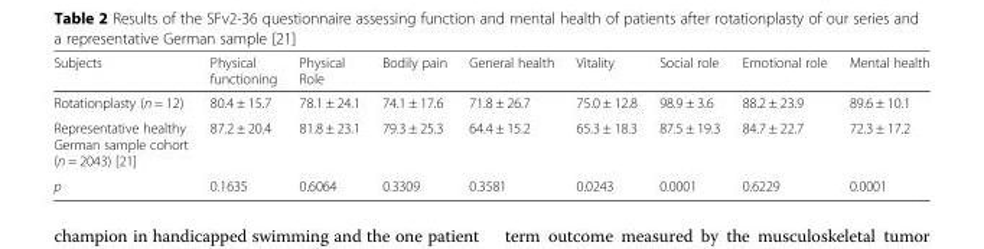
<table><thead><tr><td>Subjects</td><td>Physical functioning</td><td>Physical Role</td><td>Bodily pain</td><td>General health</td><td>Vitality</td><td>Social role</td><td>Emotional role</td><td>Mental health</td></tr></thead><tbody><tr><td>Rotationplasty (n = 12)</td><td>80.4 ± 15.7</td><td>78.1 ± 24.1</td><td>74.1 ± 17.6</td><td>71.8 ± 26.7</td><td>75.0 ± 12.8</td><td>98.9 ± 3.6</td><td>88.2 ± 23.9</td><td>89.6 ± 10.1</td></tr><tr><td>Representative healthy German sample cohort (n = 2043) [21]</td><td>87.2 ± 20.4</td><td>81.8 ± 23.1</td><td>79.3 ± 25.3</td><td>64.4 ± 15.2</td><td>65.3 ± 18.3</td><td>87.5 ± 19.3</td><td>84.7 ± 22.7</td><td>72.3 ± 17.2</td></tr><tr><td>p</td><td>0.1635</td><td>0.6064</td><td>0.3309</td><td>0.3581</td><td>0.0243</td><td>0.0001</td><td>0.6229</td><td>0.0001</td></tr></tbody></table>